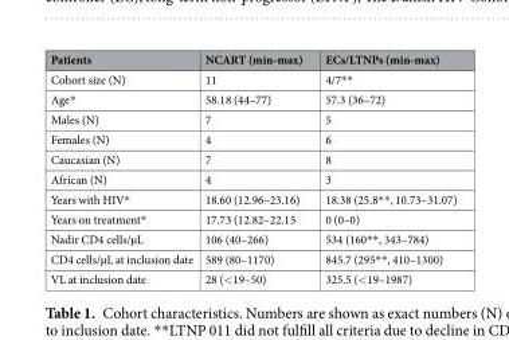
<table><thead><tr><td>Patients</td><td>NCART (min-max)</td><td>ECs/LTNPs (min-max)</td></tr></thead><tbody><tr><td>Cohort size (N)</td><td>11</td><td>4/7**</td></tr><tr><td>Age*</td><td>58.18 (44–77)</td><td>57.3 (36–72)</td></tr><tr><td>Males (N)</td><td>7</td><td>5</td></tr><tr><td>Females (N)</td><td>4</td><td>6</td></tr><tr><td>Caucasian (N)</td><td>7</td><td>8</td></tr><tr><td>African (N)</td><td>4</td><td>3</td></tr><tr><td>Years with HIV*</td><td>18.60 (12.96–23.16)</td><td>18.38 (25.8**, 10.73–31.07)</td></tr><tr><td>Years on treatment*</td><td>17.73 (12.82–22.15</td><td>0 (0–0)</td></tr><tr><td>Nadir CD4 cells/µL</td><td>106 (40–266)</td><td>534 (160**, 343–784)</td></tr><tr><td>CD4 cells/µL at inclusion date</td><td>589 (80–1170)</td><td>845.7 (295**, 410–1300)</td></tr><tr><td>VL at inclusion date</td><td>28 (&lt;19–50)</td><td>325.5 (&lt;19–1987)</td></tr></tbody></table>